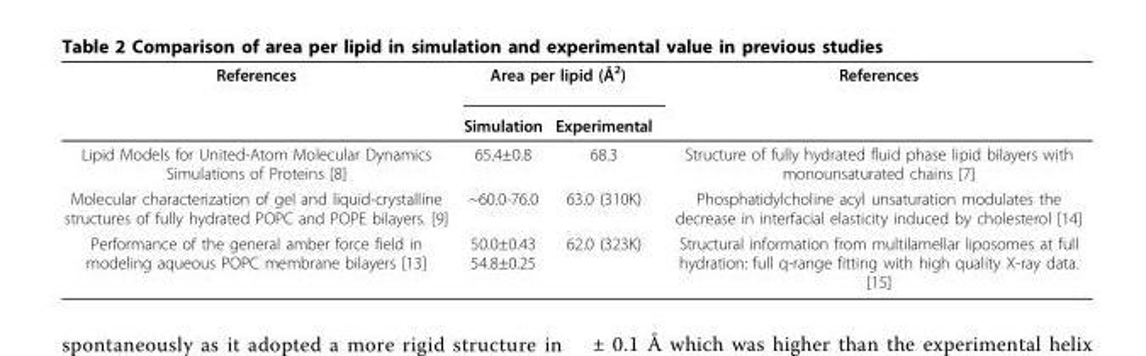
<table><thead><tr><td rowspan="2">References</td><td colspan="2">Area per lipid (Å<sup>2</sup>)</td><td rowspan="2">References</td></tr><tr><td>Simulation</td><td>Experimental</td></tr></thead><tbody><tr><td>Lipid Models for United-Atom Molecular Dynamics Simulations of Proteins [8]</td><td>65.4±0.8</td><td>68.3</td><td>Structure of fully hydrated fluid phase lipid bilayers with monounsaturated chains [7]</td></tr><tr><td>Molecular characterization of gel and liquid-crystalline structures of fully hydrated POPC and POPE bilayers. [9]</td><td>~60.0-76.0</td><td>63.0 (310K)</td><td>Phosphatidylcholine acyl unsaturation modulates the decrease in interfacial elasticity induced by cholesterol [14]</td></tr><tr><td>Performance of the general amber force field in modeling aqueous POPC membrane bilayers [13]</td><td>50.0±0.43 54.8±0.25</td><td>62.0 (323K)</td><td>Structural information from multilamellar liposomes at full hydration: full q-range fitting with high quality X-ray data. [15]</td></tr></tbody></table>